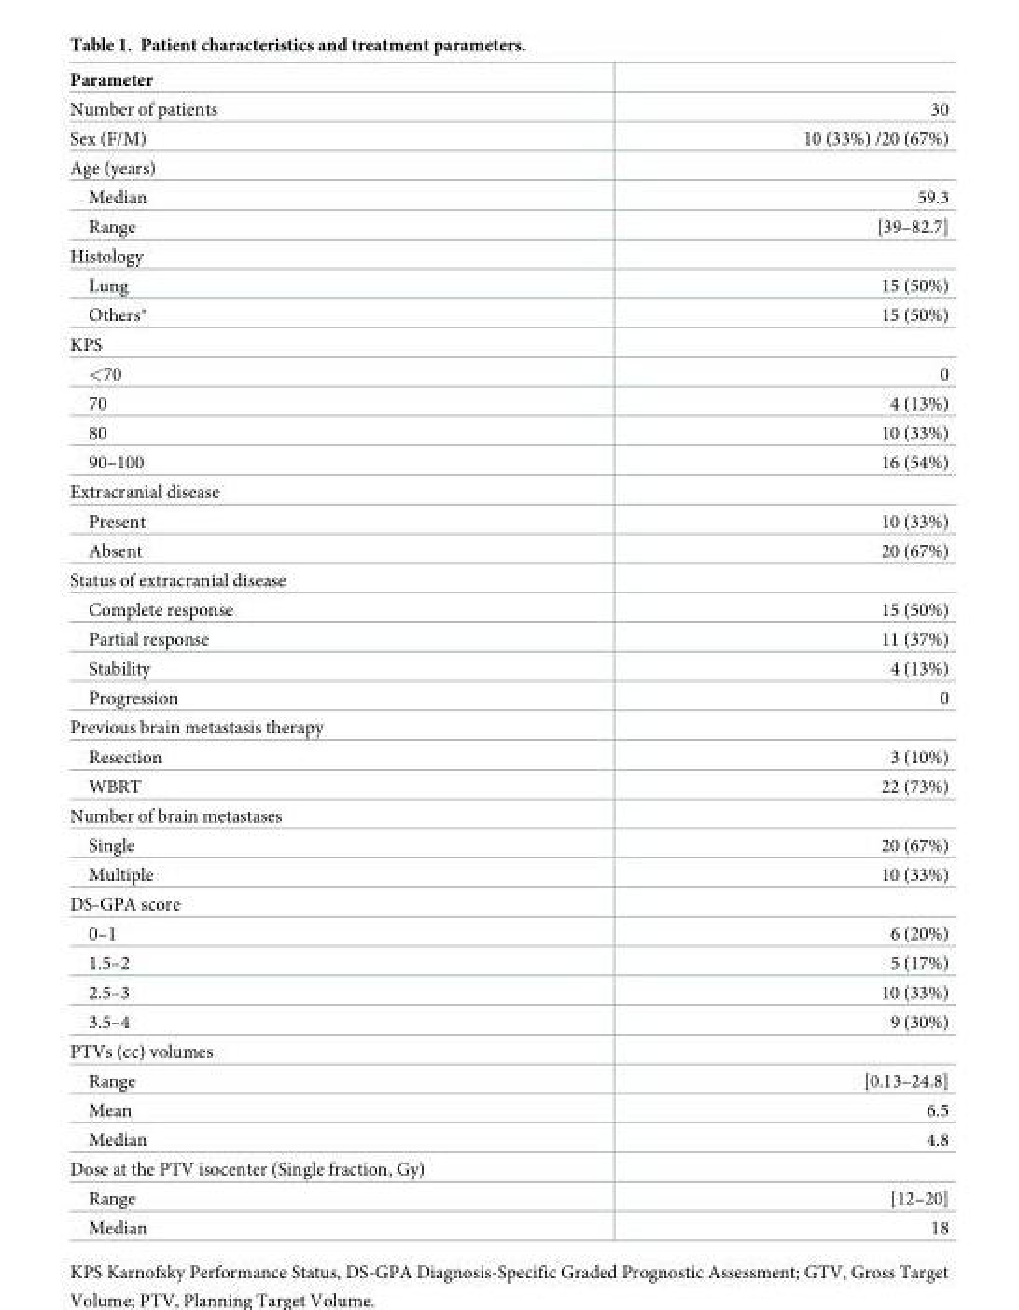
<table><thead><tr><td>Parameter</td><td></td></tr></thead><tbody><tr><td>Number of patients</td><td>30</td></tr><tr><td>Sex (F/M)</td><td>10 (33%) /20 (67%)</td></tr><tr><td colspan="2">Age (years)</td></tr><tr><td>Median</td><td>59.3</td></tr><tr><td>Range</td><td>[39–82.7]</td></tr><tr><td colspan="2">Histology</td></tr><tr><td>Lung</td><td>15 (50%)</td></tr><tr><td>Others*</td><td>15 (50%)</td></tr><tr><td colspan="2">KPS</td></tr><tr><td>&lt;70</td><td>0</td></tr><tr><td>70</td><td>4 (13%)</td></tr><tr><td>80</td><td>10 (33%)</td></tr><tr><td>90–100</td><td>16 (54%)</td></tr><tr><td colspan="2">Extracranial disease</td></tr><tr><td>Present</td><td>10 (33%)</td></tr><tr><td>Absent</td><td>20 (67%)</td></tr><tr><td colspan="2">Status of extracranial disease</td></tr><tr><td>Complete response</td><td>15 (50%)</td></tr><tr><td>Partial response</td><td>11 (37%)</td></tr><tr><td>Stability</td><td>4 (13%)</td></tr><tr><td>Progression</td><td>0</td></tr><tr><td colspan="2">Previous brain metastasis therapy</td></tr><tr><td>Resection</td><td>3 (10%)</td></tr><tr><td>WBRT</td><td>22 (73%)</td></tr><tr><td colspan="2">Number of brain metastases</td></tr><tr><td>Single</td><td>20 (67%)</td></tr><tr><td>Multiple</td><td>10 (33%)</td></tr><tr><td colspan="2">DS-GPA score</td></tr><tr><td>0–1</td><td>6 (20%)</td></tr><tr><td>1.5–2</td><td>5 (17%)</td></tr><tr><td>2.5–3</td><td>10 (33%)</td></tr><tr><td>3.5–4</td><td>9 (30%)</td></tr><tr><td colspan="2">PTVs (cc) volumes</td></tr><tr><td>Range</td><td>[0.13–24.8]</td></tr><tr><td>Mean</td><td>6.5</td></tr><tr><td>Median</td><td>4.8</td></tr><tr><td colspan="2">Dose at the PTV isocenter (Single fraction, Gy)</td></tr><tr><td>Range</td><td>[12–20]</td></tr><tr><td>Median</td><td>18</td></tr></tbody></table>